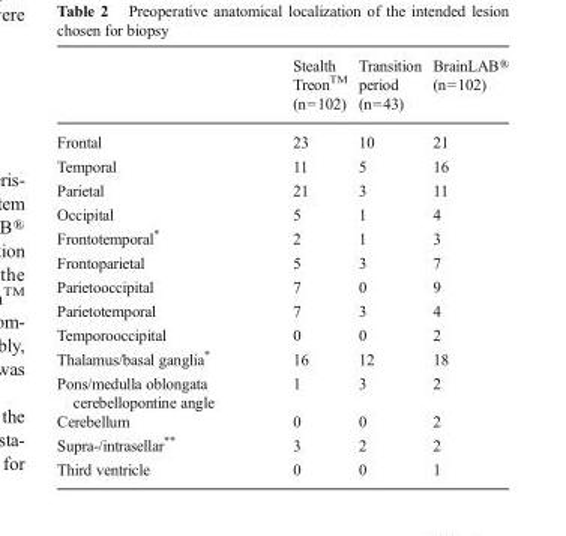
<table><thead><tr><td></td><td>Stealth Treon<sup>TM</sup> (n=102)</td><td>Transition period (n=43)</td><td>BrainLAB® (n=102)</td></tr></thead><tbody><tr><td>Frontal</td><td>23</td><td>10</td><td>21</td></tr><tr><td>Temporal</td><td>11</td><td>5</td><td>16</td></tr><tr><td>Parietal</td><td>21</td><td>3</td><td>11</td></tr><tr><td>Occipital</td><td>5</td><td>1</td><td>4</td></tr><tr><td>Frontotemporal*</td><td>2</td><td>1</td><td>3</td></tr><tr><td>Frontoparietal</td><td>5</td><td>3</td><td>7</td></tr><tr><td>Parietooccipital</td><td>7</td><td>0</td><td>9</td></tr><tr><td>Parietotemporal</td><td>7</td><td>3</td><td>4</td></tr><tr><td>Temporooccipital</td><td>0</td><td>0</td><td>2</td></tr><tr><td>Thalamus/basal ganglia*</td><td>16</td><td>12</td><td>18</td></tr><tr><td>Pons/medulla oblongata cerebellopontine angle</td><td>1</td><td>3</td><td>2</td></tr><tr><td>Cerebellum</td><td>0</td><td>0</td><td>2</td></tr><tr><td>Supra-/intrasellar**</td><td>3</td><td>2</td><td>2</td></tr><tr><td>Third ventricle</td><td>0</td><td>0</td><td>1</td></tr></tbody></table>